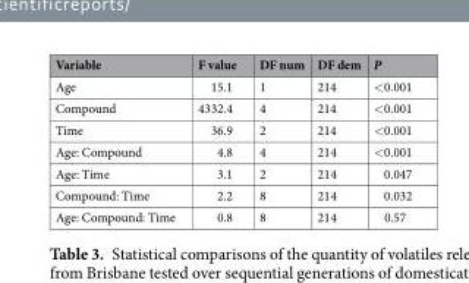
<table><thead><tr><td>Variable</td><td>F value</td><td>DF num</td><td>DF dem</td><td>P</td></tr></thead><tbody><tr><td>Age</td><td>15.1</td><td>1</td><td>214</td><td>&lt;0.001</td></tr><tr><td>Compound</td><td>4332.4</td><td>4</td><td>214</td><td>&lt;0.001</td></tr><tr><td>Time</td><td>36.9</td><td>2</td><td>214</td><td>&lt;0.001</td></tr><tr><td>Age: Compound</td><td>4.8</td><td>4</td><td>214</td><td>&lt;0.001</td></tr><tr><td>Age: Time</td><td>3.1</td><td>2</td><td>214</td><td>0.047</td></tr><tr><td>Compound: Time</td><td>2.2</td><td>8</td><td>214</td><td>0.032</td></tr><tr><td>Age: Compound: Time</td><td>0.8</td><td>8</td><td>214</td><td>0.57</td></tr></tbody></table>